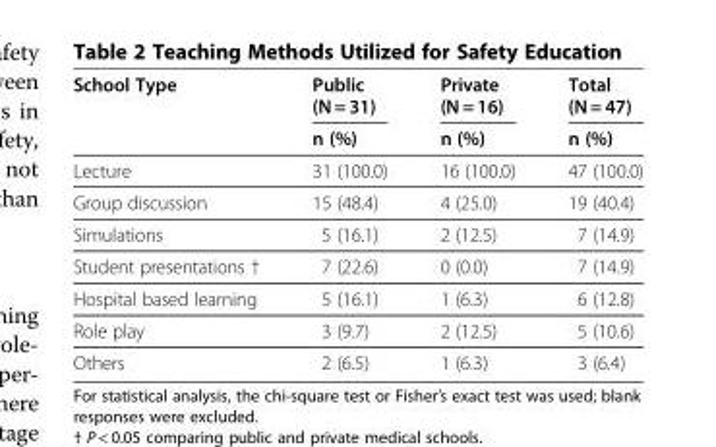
<table><thead><tr><td rowspan="2">School Type</td><td rowspan="2">Public (N = 31) n (%)</td><td rowspan="2">Private (N = 16) n (%)</td><td rowspan="2">Total (N = 47) n (%)</td></tr><tr></tr></thead><tbody><tr><td>Lecture</td><td>31 (100.0)</td><td>16 (100.0)</td><td>47 (100.0)</td></tr><tr><td>Group discussion</td><td>15 (48.4)</td><td>4 (25.0)</td><td>19 (40.4)</td></tr><tr><td>Simulations</td><td>5 (16.1)</td><td>2 (12.5)</td><td>7 (14.9)</td></tr><tr><td>Student presentations †</td><td>7 (22.6)</td><td>0 (0.0)</td><td>7 (14.9)</td></tr><tr><td>Hospital based learning</td><td>5 (16.1)</td><td>1 (6.3)</td><td>6 (12.8)</td></tr><tr><td>Role play</td><td>3 (9.7)</td><td>2 (12.5)</td><td>5 (10.6)</td></tr><tr><td>Others</td><td>2 (6.5)</td><td>1 (6.3)</td><td>3 (6.4)</td></tr></tbody></table>